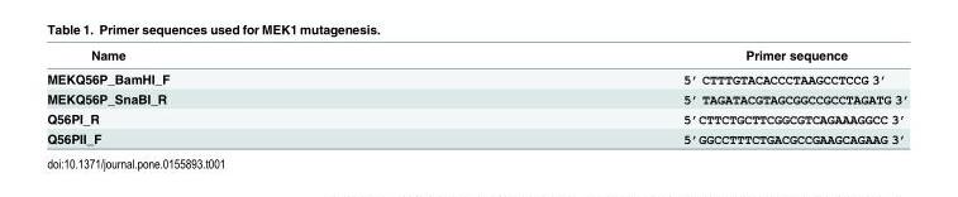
<table><thead><tr><td>Name</td><td>Primer sequence</td></tr></thead><tbody><tr><td>MEKQ56P_BamHI_F</td><td>5’ CTTTGTACACCCTAAGCCTCCG 3’</td></tr><tr><td>MEKQ56P_SnaBI_R</td><td>5’ TAGATACGTAGCGGCCGCCTAGATG 3’</td></tr><tr><td>Q56PI_R</td><td>5’CTTCTGCTTCGGCGTCAGAAAGGCC 3’</td></tr><tr><td>Q56PII_F</td><td>5’GGCCTTTCTGACGCCGAAGCAGAAG 3’</td></tr></tbody></table>